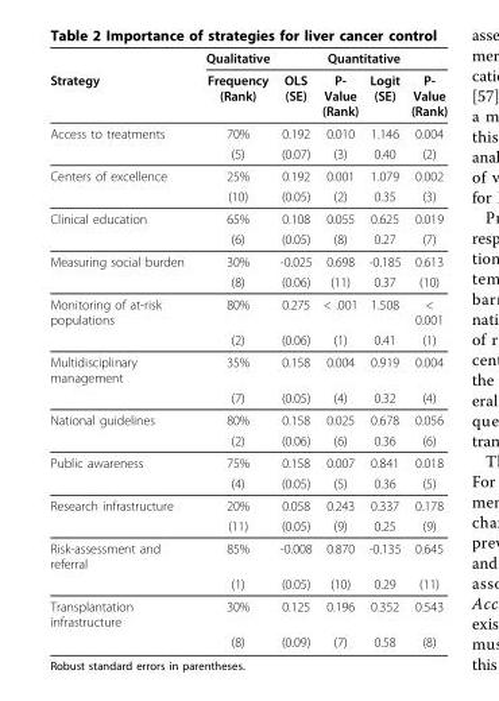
<table><thead><tr><td rowspan="2">Strategy</td><td rowspan="2">Qualitative Frequency (Rank)</td><td colspan="4">Quantitative</td></tr><tr><td>OLS (SE)</td><td>P- Value (Rank)</td><td>Logit (SE)</td><td>P- Value (Rank)</td></tr></thead><tbody><tr><td rowspan="2">Access to treatments</td><td>70%</td><td>0.192</td><td>0.010</td><td>1.146</td><td>0.004</td></tr><tr><td>(5)</td><td>(0.07)</td><td>(3)</td><td>0.40</td><td>(2)</td></tr><tr><td rowspan="2">Centers of excellence</td><td>25%</td><td>0.192</td><td>0.001</td><td>1.079</td><td>0.002</td></tr><tr><td>(10)</td><td>(0.05)</td><td>(2)</td><td>0.35</td><td>(3)</td></tr><tr><td rowspan="2">Clinical education</td><td>65%</td><td>0.108</td><td>0.055</td><td>0.625</td><td>0.019</td></tr><tr><td>(6)</td><td>(0.05)</td><td>(8)</td><td>0.27</td><td>(7)</td></tr><tr><td rowspan="2">Measuring social burden</td><td>30%</td><td>-0.025</td><td>0.698</td><td>-0.185</td><td>0.613</td></tr><tr><td>(8)</td><td>(0.06)</td><td>(11)</td><td>0.37</td><td>(10)</td></tr><tr><td rowspan="2">Monitoring of at-risk populations</td><td>80%</td><td>0.275</td><td>&lt; .001</td><td>1.508</td><td>&lt; 0.001</td></tr><tr><td>(2)</td><td>(0.06)</td><td>(1)</td><td>0.41</td><td>(1)</td></tr><tr><td rowspan="2">Multidisciplinary management</td><td>35%</td><td>0.158</td><td>0.004</td><td>0.919</td><td>0.004</td></tr><tr><td>(7)</td><td>(0.05)</td><td>(4)</td><td>0.32</td><td>(4)</td></tr><tr><td rowspan="2">National guidelines</td><td>80%</td><td>0.158</td><td>0.025</td><td>0.678</td><td>0.056</td></tr><tr><td>(2)</td><td>(0.06)</td><td>(6)</td><td>0.36</td><td>(6)</td></tr><tr><td rowspan="2">Public awareness</td><td>75%</td><td>0.158</td><td>0.007</td><td>0.841</td><td>0.018</td></tr><tr><td>(4)</td><td>(0.05)</td><td>(5)</td><td>0.36</td><td>(5)</td></tr><tr><td rowspan="2">Research infrastructure</td><td>20%</td><td>0.058</td><td>0.243</td><td>0.337</td><td>0.178</td></tr><tr><td>(11)</td><td>(0.05)</td><td>(9)</td><td>0.25</td><td>(9)</td></tr><tr><td rowspan="2">Risk-assessment and referral</td><td>85%</td><td>-0.008</td><td>0.870</td><td>-0.135</td><td>0.645</td></tr><tr><td>(1)</td><td>(0.05)</td><td>(10)</td><td>0.29</td><td>(11)</td></tr><tr><td rowspan="2">Transplantation infrastructure</td><td>30%</td><td>0.125</td><td>0.196</td><td>0.352</td><td>0.543</td></tr><tr><td>(8)</td><td>(0.09)</td><td>(7)</td><td>0.58</td><td>(8)</td></tr></tbody></table>